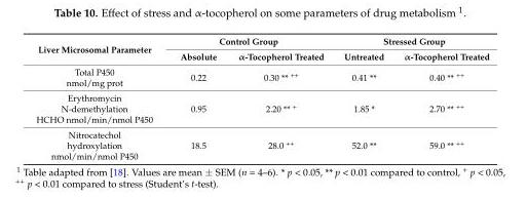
<table><thead><tr><td rowspan="2">Liver Microsomal Parameter</td><td colspan="2">Control Group</td><td colspan="2">Stressed Group</td></tr><tr><td>Absolute</td><td>α-Tocopherol Treated</td><td>Untreated</td><td>α-Tocopherol Treated</td></tr></thead><tbody><tr><td>Total P450 nmol/mg prot</td><td>0.22</td><td>0.30 ** <sup>++</sup></td><td>0.41 **</td><td>0.40 ** <sup>++</sup></td></tr><tr><td>Erythromycin N-demethylation HCHO nmol/min/nmol P450</td><td>0.95</td><td>2.20 ** <sup>+</sup></td><td>1.85 *</td><td>2.70 ** <sup>++</sup></td></tr><tr><td>Nitrocatechol hydroxylation nmol/min/nmol P450</td><td>18.5</td><td>28.0 <sup>++</sup></td><td>52.0 **</td><td>59.0 ** <sup>++</sup></td></tr></tbody></table>